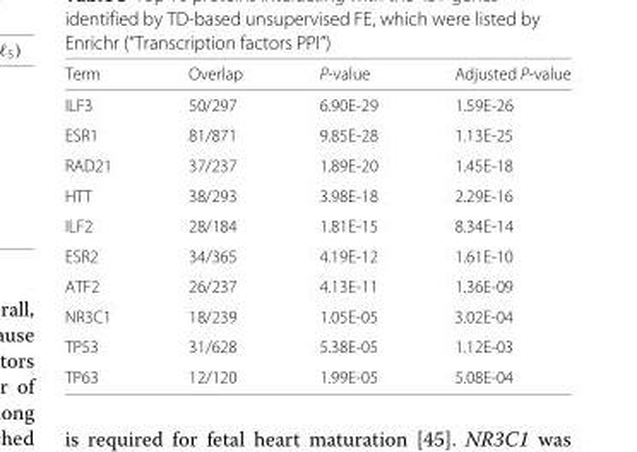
<table><thead><tr><td>Term</td><td>Overlap</td><td>P-value</td><td>Adjusted P-value</td></tr></thead><tbody><tr><td>ILF3</td><td>50/297</td><td>6.90E-29</td><td>1.59E-26</td></tr><tr><td>ESR1</td><td>81/871</td><td>9.85E-28</td><td>1.13E-25</td></tr><tr><td>RAD21</td><td>37/237</td><td>1.89E-20</td><td>1.45E-18</td></tr><tr><td>HTT</td><td>38/293</td><td>3.98E-18</td><td>2.29E-16</td></tr><tr><td>ILF2</td><td>28/184</td><td>1.81E-15</td><td>8.34E-14</td></tr><tr><td>ESR2</td><td>34/365</td><td>4.19E-12</td><td>1.61E-10</td></tr><tr><td>ATF2</td><td>26/237</td><td>4.13E-11</td><td>1.36E-09</td></tr><tr><td>NR3C1</td><td>18/239</td><td>1.05E-05</td><td>3.02E-04</td></tr><tr><td>TP53</td><td>31/628</td><td>5.38E-05</td><td>1.12E-03</td></tr><tr><td>TP63</td><td>12/120</td><td>1.99E-05</td><td>5.08E-04</td></tr></tbody></table>